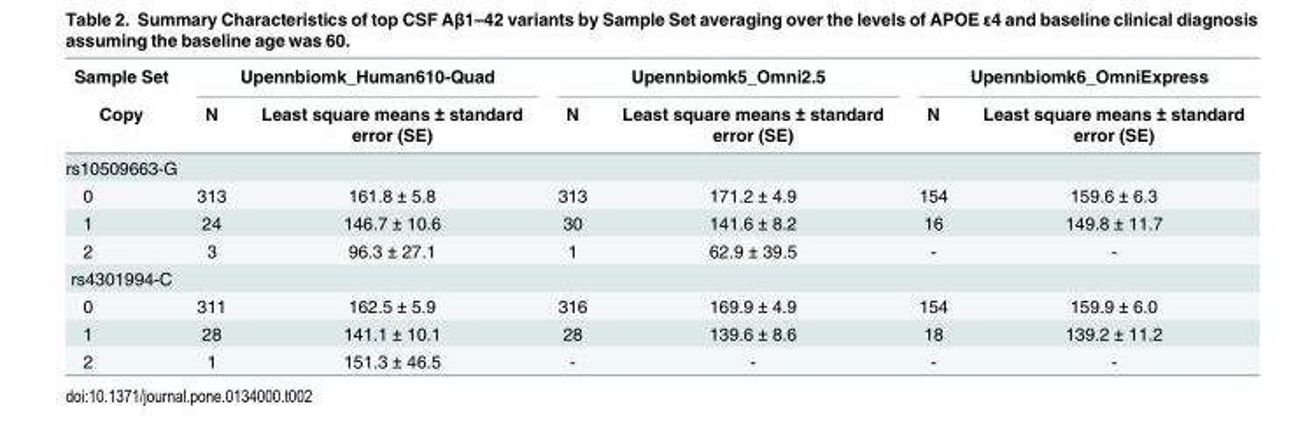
<table><thead><tr><td rowspan="2">Sample Set Copy</td><td colspan="2">Upennbiomk_Human610-Quad</td><td colspan="2">Upennbiomk5_Omni2.5</td><td colspan="2">Upennbiomk6_OmniExpress</td></tr><tr><td>N</td><td>Least square means ± standard error (SE)</td><td>N</td><td>Least square means ± standard error (SE)</td><td>N</td><td>Least square means ± standard error (SE)</td></tr></thead><tbody><tr><td colspan="7">rs10509663-G</td></tr><tr><td>0</td><td>313</td><td>161.8 ± 5.8</td><td>313</td><td>171.2 ± 4.9</td><td>154</td><td>159.6 ± 6.3</td></tr><tr><td>1</td><td>24</td><td>146.7 ± 10.6</td><td>30</td><td>141.6 ± 8.2</td><td>16</td><td>149.8 ± 11.7</td></tr><tr><td>2</td><td>3</td><td>96.3 ± 27.1</td><td>1</td><td>62.9 ± 39.5</td><td>-</td><td>-</td></tr><tr><td colspan="7">rs4301994-C</td></tr><tr><td>0</td><td>311</td><td>162.5 ± 5.9</td><td>316</td><td>169.9 ± 4.9</td><td>154</td><td>159.9 ± 6.0</td></tr><tr><td>1</td><td>28</td><td>141.1 ± 10.1</td><td>28</td><td>139.6 ± 8.6</td><td>18</td><td>139.2 ± 11.2</td></tr><tr><td>2</td><td>1</td><td>151.3 ± 46.5</td><td>-</td><td>-</td><td>-</td><td>-</td></tr></tbody></table>